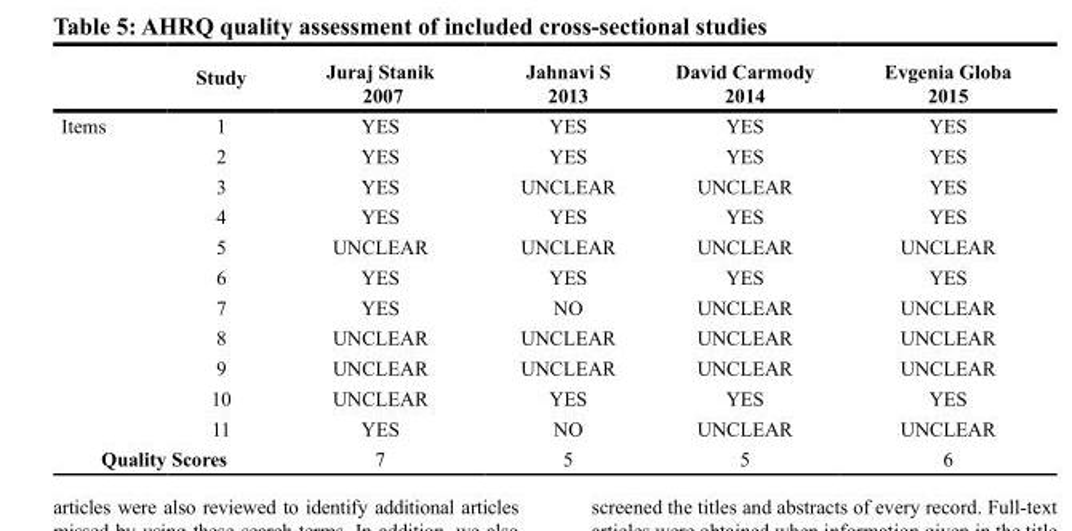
<table><thead><tr><td></td><td>Study</td><td>Juraj Stanik 2007</td><td>Jahnavi S 2013</td><td>David Carmody 2014</td><td>Evgenia Globa 2015</td></tr></thead><tbody><tr><td rowspan="11">Items</td><td>1</td><td>YES</td><td>YES</td><td>YES</td><td>YES</td></tr><tr><td>2</td><td>YES</td><td>YES</td><td>YES</td><td>YES</td></tr><tr><td>3</td><td>YES</td><td>UNCLEAR</td><td>UNCLEAR</td><td>YES</td></tr><tr><td>4</td><td>YES</td><td>YES</td><td>YES</td><td>YES</td></tr><tr><td>5</td><td>UNCLEAR</td><td>UNCLEAR</td><td>UNCLEAR</td><td>UNCLEAR</td></tr><tr><td>6</td><td>YES</td><td>YES</td><td>YES</td><td>YES</td></tr><tr><td>7</td><td>YES</td><td>NO</td><td>UNCLEAR</td><td>UNCLEAR</td></tr><tr><td>8</td><td>UNCLEAR</td><td>UNCLEAR</td><td>UNCLEAR</td><td>UNCLEAR</td></tr><tr><td>9</td><td>UNCLEAR</td><td>UNCLEAR</td><td>UNCLEAR</td><td>UNCLEAR</td></tr><tr><td>10</td><td>UNCLEAR</td><td>YES</td><td>YES</td><td>YES</td></tr><tr><td>11</td><td>YES</td><td>NO</td><td>UNCLEAR</td><td>UNCLEAR</td></tr><tr><td colspan="2">Quality Scores</td><td>7</td><td>5</td><td>5</td><td>6</td></tr></tbody></table>